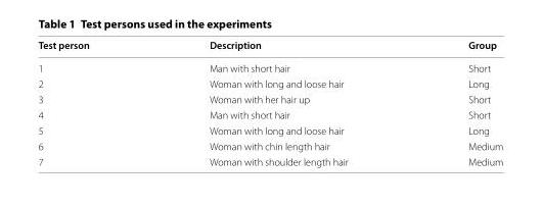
<table><thead><tr><td>Test person</td><td>Description</td><td>Group</td></tr></thead><tbody><tr><td>1</td><td>Man with short hair</td><td>Short</td></tr><tr><td>2</td><td>Woman with long and loose hair</td><td>Long</td></tr><tr><td>3</td><td>Woman with her hair up</td><td>Short</td></tr><tr><td>4</td><td>Man with short hair</td><td>Short</td></tr><tr><td>5</td><td>Woman with long and loose hair</td><td>Long</td></tr><tr><td>6</td><td>Woman with chin length hair</td><td>Medium</td></tr><tr><td>7</td><td>Woman with shoulder length hair</td><td>Medium</td></tr></tbody></table>